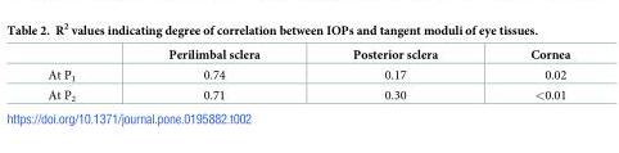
<table><thead><tr><td></td><td>Perilimbal sclera</td><td>Posterior sclera</td><td>Cornea</td></tr></thead><tbody><tr><td>At P<sub>1</sub></td><td>0.74</td><td>0.17</td><td>0.02</td></tr><tr><td>At P<sub>2</sub></td><td>0.71</td><td>0.30</td><td>&lt;0.01</td></tr></tbody></table>